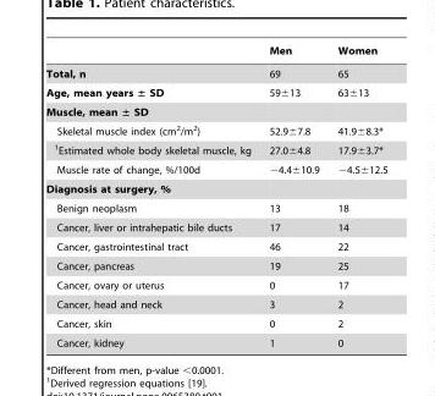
<table><thead><tr><td></td><td>Men</td><td>Women</td></tr></thead><tbody><tr><td>Total, n</td><td>69</td><td>65</td></tr><tr><td>Age, mean years ± SD</td><td>59±13</td><td>63±13</td></tr><tr><td colspan="3">Muscle, mean ± SD</td></tr><tr><td>Skeletal muscle index (cm<sup>2</sup>/m<sup>2</sup>)</td><td>52.9±7.8</td><td>41.9±8.3*</td></tr><tr><td><sup>1</sup>Estimated whole body skeletal muscle, kg</td><td>27.0±4.8</td><td>17.9±3.7*</td></tr><tr><td>Muscle rate of change, %/100d</td><td>−4.4±10.9</td><td>−4.5±12.5</td></tr><tr><td colspan="3">Diagnosis at surgery, %</td></tr><tr><td>Benign neoplasm</td><td>13</td><td>18</td></tr><tr><td>Cancer, liver or intrahepatic bile ducts</td><td>17</td><td>14</td></tr><tr><td>Cancer, gastrointestinal tract</td><td>46</td><td>22</td></tr><tr><td>Cancer, pancreas</td><td>19</td><td>25</td></tr><tr><td>Cancer, ovary or uterus</td><td>0</td><td>17</td></tr><tr><td>Cancer, head and neck</td><td>3</td><td>2</td></tr><tr><td>Cancer, skin</td><td>0</td><td>2</td></tr><tr><td>Cancer, kidney</td><td>1</td><td>0</td></tr></tbody></table>